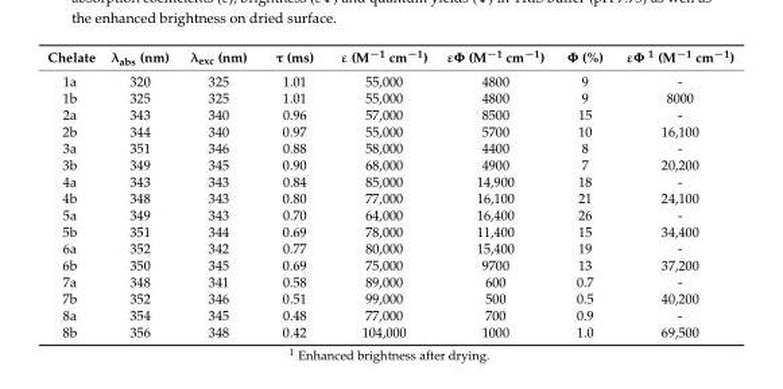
<table><thead><tr><td>Chelate</td><td>λabs (nm)</td><td>λexc (nm)</td><td>τ (ms)</td><td>ε (M−1 cm−1)</td><td>εΦ (M−1 cm−1)</td><td>Φ (%)</td><td>εΦ 1 (M−1 cm−1)</td></tr></thead><tbody><tr><td>1a</td><td>320</td><td>325</td><td>1.01</td><td>55,000</td><td>4800</td><td>9</td><td>-</td></tr><tr><td>1b</td><td>325</td><td>325</td><td>1.01</td><td>55,000</td><td>4800</td><td>9</td><td>8000</td></tr><tr><td>2a</td><td>343</td><td>340</td><td>0.96</td><td>57,000</td><td>8500</td><td>15</td><td>-</td></tr><tr><td>2b</td><td>344</td><td>340</td><td>0.97</td><td>55,000</td><td>5700</td><td>10</td><td>16,100</td></tr><tr><td>3a</td><td>351</td><td>346</td><td>0.88</td><td>58,000</td><td>4400</td><td>8</td><td>-</td></tr><tr><td>3b</td><td>349</td><td>345</td><td>0.90</td><td>68,000</td><td>4900</td><td>7</td><td>20,200</td></tr><tr><td>4a</td><td>343</td><td>343</td><td>0.84</td><td>85,000</td><td>14,900</td><td>18</td><td>-</td></tr><tr><td>4b</td><td>348</td><td>343</td><td>0.80</td><td>77,000</td><td>16,100</td><td>21</td><td>24,100</td></tr><tr><td>5a</td><td>349</td><td>343</td><td>0.70</td><td>64,000</td><td>16,400</td><td>26</td><td>-</td></tr><tr><td>5b</td><td>351</td><td>344</td><td>0.69</td><td>78,000</td><td>11,400</td><td>15</td><td>34,400</td></tr><tr><td>6a</td><td>352</td><td>342</td><td>0.77</td><td>80,000</td><td>15,400</td><td>19</td><td>-</td></tr><tr><td>6b</td><td>350</td><td>345</td><td>0.69</td><td>75,000</td><td>9700</td><td>13</td><td>37,200</td></tr><tr><td>7a</td><td>348</td><td>341</td><td>0.58</td><td>89,000</td><td>600</td><td>0.7</td><td>-</td></tr><tr><td>7b</td><td>352</td><td>346</td><td>0.51</td><td>99,000</td><td>500</td><td>0.5</td><td>40,200</td></tr><tr><td>8a</td><td>354</td><td>345</td><td>0.48</td><td>77,000</td><td>700</td><td>0.9</td><td>-</td></tr><tr><td>8b</td><td>356</td><td>348</td><td>0.42</td><td>104,000</td><td>1000</td><td>1.0</td><td>69,500</td></tr></tbody></table>